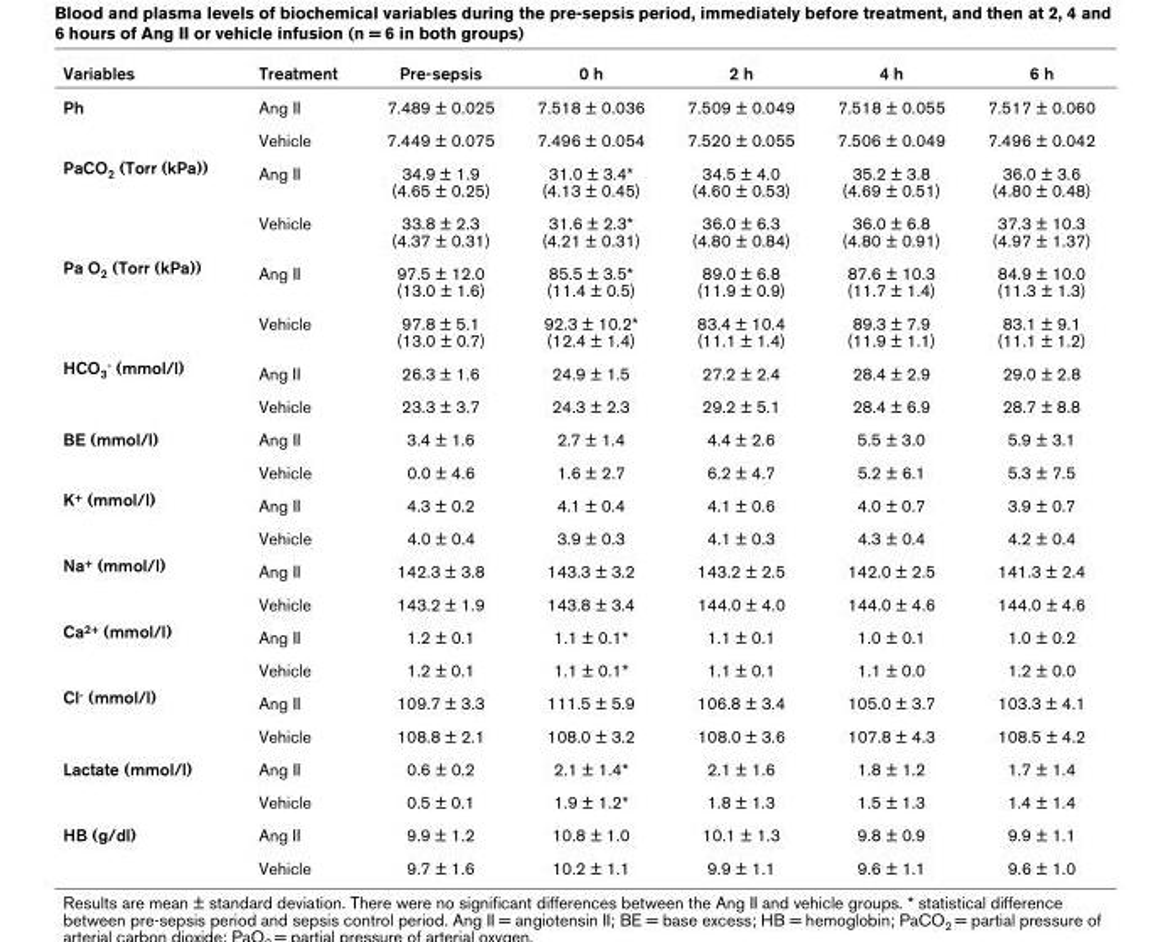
<table><thead><tr><td>Variables</td><td>Treatment</td><td>Pre-sepsis</td><td>0 h</td><td>2 h</td><td>4 h</td><td>6 h</td></tr></thead><tbody><tr><td rowspan="2">Ph</td><td>Ang II</td><td>7.489 ± 0.025</td><td>7.518 ± 0.036</td><td>7.509 ± 0.049</td><td>7.518 ± 0.055</td><td>7.517 ± 0.060</td></tr><tr><td>Vehicle</td><td>7.449 ± 0.075</td><td>7.496 ± 0.054</td><td>7.520 ± 0.055</td><td>7.506 ± 0.049</td><td>7.496 ± 0.042</td></tr><tr><td rowspan="2">PaCO<sub>2</sub> (Torr (kPa))</td><td>Ang II</td><td>34.9 ± 1.9 (4.65 ± 0.25)</td><td>31.0 ± 3.4* (4.13 ± 0.45)</td><td>34.5 ± 4.0 (4.60 ± 0.53)</td><td>35.2 ± 3.8 (4.69 ± 0.51)</td><td>36.0 ± 3.6 (4.80 ± 0.48)</td></tr><tr><td>Vehicle</td><td>33.8 ± 2.3 (4.37 ± 0.31)</td><td>31.6 ± 2.3* (4.21 ± 0.31)</td><td>36.0 ± 6.3 (4.80 ± 0.84)</td><td>36.0 ± 6.8 (4.80 ± 0.91)</td><td>37.3 ± 10.3 (4.97 ± 1.37)</td></tr><tr><td rowspan="2">Pa O<sub>2</sub> (Torr (kPa))</td><td>Ang II</td><td>97.5 ± 12.0 (13.0 ± 1.6)</td><td>85.5 ± 3.5* (11.4 ± 0.5)</td><td>89.0 ± 6.8 (11.9 ± 0.9)</td><td>87.6 ± 10.3 (11.7 ± 1.4)</td><td>84.9 ± 10.0 (11.3 ± 1.3)</td></tr><tr><td>Vehicle</td><td>97.8 ± 5.1 (13.0 ± 0.7)</td><td>92.3 ± 10.2* (12.4 ± 1.4)</td><td>83.4 ± 10.4 (11.1 ± 1.4)</td><td>89.3 ± 7.9 (11.9 ± 1.1)</td><td>83.1 ± 9.1 (11.1 ± 1.2)</td></tr><tr><td rowspan="2">HCO<sub>3</sub><sup>-</sup> (mmol/l)</td><td>Ang II</td><td>26.3 ± 1.6</td><td>24.9 ± 1.5</td><td>27.2 ± 2.4</td><td>28.4 ± 2.9</td><td>29.0 ± 2.8</td></tr><tr><td>Vehicle</td><td>23.3 ± 3.7</td><td>24.3 ± 2.3</td><td>29.2 ± 5.1</td><td>28.4 ± 6.9</td><td>28.7 ± 8.8</td></tr><tr><td rowspan="2">BE (mmol/l)</td><td>Ang II</td><td>3.4 ± 1.6</td><td>2.7 ± 1.4</td><td>4.4 ± 2.6</td><td>5.5 ± 3.0</td><td>5.9 ± 3.1</td></tr><tr><td>Vehicle</td><td>0.0 ± 4.6</td><td>1.6 ± 2.7</td><td>6.2 ± 4.7</td><td>5.2 ± 6.1</td><td>5.3 ± 7.5</td></tr><tr><td rowspan="2">K<sup>+</sup> (mmol/l)</td><td>Ang II</td><td>4.3 ± 0.2</td><td>4.1 ± 0.4</td><td>4.1 ± 0.6</td><td>4.0 ± 0.7</td><td>3.9 ± 0.7</td></tr><tr><td>Vehicle</td><td>4.0 ± 0.4</td><td>3.9 ± 0.3</td><td>4.1 ± 0.3</td><td>4.3 ± 0.4</td><td>4.2 ± 0.4</td></tr><tr><td rowspan="2">Na<sup>+</sup> (mmol/l)</td><td>Ang II</td><td>142.3 ± 3.8</td><td>143.3 ± 3.2</td><td>143.2 ± 2.5</td><td>142.0 ± 2.5</td><td>141.3 ± 2.4</td></tr><tr><td>Vehicle</td><td>143.2 ± 1.9</td><td>143.8 ± 3.4</td><td>144.0 ± 4.0</td><td>144.0 ± 4.6</td><td>144.0 ± 4.6</td></tr><tr><td rowspan="2">Ca<sup>2+</sup> (mmol/l)</td><td>Ang II</td><td>1.2 ± 0.1</td><td>1.1 ± 0.1*</td><td>1.1 ± 0.1</td><td>1.0 ± 0.1</td><td>1.0 ± 0.2</td></tr><tr><td>Vehicle</td><td>1.2 ± 0.1</td><td>1.1 ± 0.1*</td><td>1.1 ± 0.1</td><td>1.1 ± 0.0</td><td>1.2 ± 0.0</td></tr><tr><td rowspan="2">Cl<sup>-</sup> (mmol/l)</td><td>Ang II</td><td>109.7 ± 3.3</td><td>111.5 ± 5.9</td><td>106.8 ± 3.4</td><td>105.0 ± 3.7</td><td>103.3 ± 4.1</td></tr><tr><td>Vehicle</td><td>108.8 ± 2.1</td><td>108.0 ± 3.2</td><td>108.0 ± 3.6</td><td>107.8 ± 4.3</td><td>108.5 ± 4.2</td></tr><tr><td rowspan="2">Lactate (mmol/l)</td><td>Ang II</td><td>0.6 ± 0.2</td><td>2.1 ± 1.4*</td><td>2.1 ± 1.6</td><td>1.8 ± 1.2</td><td>1.7 ± 1.4</td></tr><tr><td>Vehicle</td><td>0.5 ± 0.1</td><td>1.9 ± 1.2*</td><td>1.8 ± 1.3</td><td>1.5 ± 1.3</td><td>1.4 ± 1.4</td></tr><tr><td rowspan="2">HB (g/dl)</td><td>Ang II</td><td>9.9 ± 1.2</td><td>10.8 ± 1.0</td><td>10.1 ± 1.3</td><td>9.8 ± 0.9</td><td>9.9 ± 1.1</td></tr><tr><td>Vehicle</td><td>9.7 ± 1.6</td><td>10.2 ± 1.1</td><td>9.9 ± 1.1</td><td>9.6 ± 1.1</td><td>9.6 ± 1.0</td></tr></tbody></table>